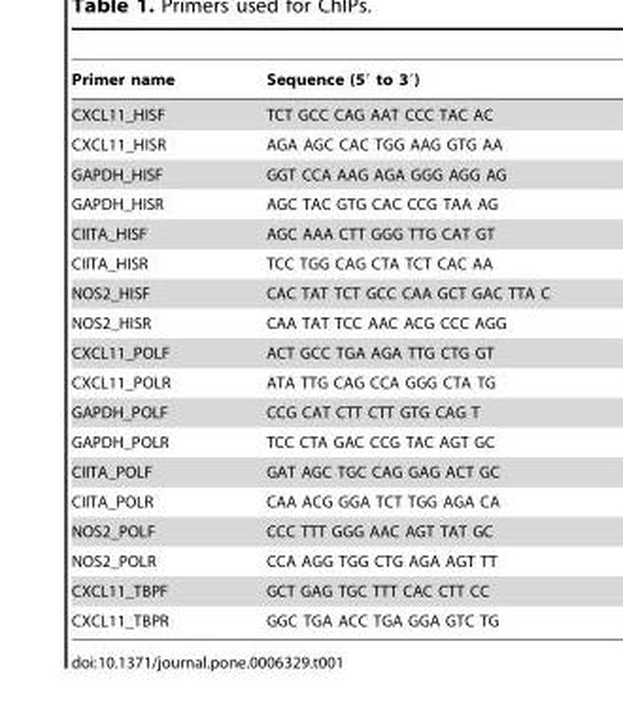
<table><thead><tr><td>Primer name</td><td>Sequence (5′ to 3′)</td></tr></thead><tbody><tr><td>CXCL11_HISF</td><td>TCT GCC CAG AAT CCC TAC AC</td></tr><tr><td>CXCL11_HISR</td><td>AGA AGC CAC TGG AAG GTG AA</td></tr><tr><td>GAPDH_HISF</td><td>GGT CCA AAG AGA GGG AGG AG</td></tr><tr><td>GAPDH_HISR</td><td>AGC TAC GTG CAC CCG TAA AG</td></tr><tr><td>CIITA_HISF</td><td>AGC AAA CTT GGG TTG CAT GT</td></tr><tr><td>CIITA_HISR</td><td>TCC TGG CAG CTA TCT CAC AA</td></tr><tr><td>NOS2_HISF</td><td>CAC TAT TCT GCC CAA GCT GAC TTA C</td></tr><tr><td>NOS2_HISR</td><td>CAA TAT TCC AAC ACG CCC AGG</td></tr><tr><td>CXCL11_POLF</td><td>ACT GCC TGA AGA TTG CTG GT</td></tr><tr><td>CXCL11_POLR</td><td>ATA TTG CAG CCA GGG CTA TG</td></tr><tr><td>GAPDH_POLF</td><td>CCG CAT CTT CTT GTG CAG T</td></tr><tr><td>GAPDH_POLR</td><td>TCC CTA GAC CCG TAC AGT GC</td></tr><tr><td>CIITA_POLF</td><td>GAT AGC TGC CAG GAG ACT GC</td></tr><tr><td>CIITA_POLR</td><td>CAA ACG GGA TCT TGG AGA CA</td></tr><tr><td>NOS2_POLF</td><td>CCC TTT GGG AAC AGT TAT GC</td></tr><tr><td>NOS2_POLR</td><td>CCA AGG TGG CTG AGA AGT TT</td></tr><tr><td>CXCL11_TBPF</td><td>GCT GAG TGC TTT CAC CTT CC</td></tr><tr><td>CXCL11_TBPR</td><td>GGC TGA ACC TGA GGA GTC TG</td></tr></tbody></table>